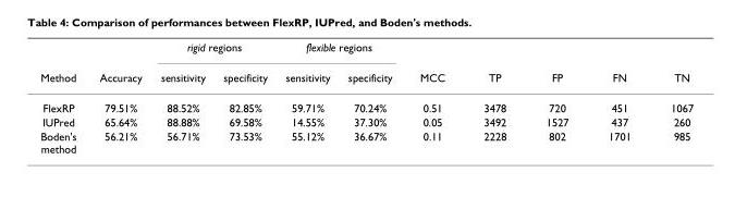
<table><thead><tr><td rowspan="2">Method</td><td rowspan="2">Accuracy</td><td colspan="2">rigid regions</td><td colspan="2">flexible regions</td><td rowspan="2">MCC</td><td rowspan="2">TP</td><td rowspan="2">FP</td><td rowspan="2">FN</td><td rowspan="2">TN</td></tr><tr><td>sensitivity</td><td>specificity</td><td>sensitivity</td><td>specificity</td></tr></thead><tbody><tr><td>FlexRP</td><td>79.51%</td><td>88.52%</td><td>82.85%</td><td>59.71%</td><td>70.24%</td><td>0.51</td><td>3478</td><td>720</td><td>451</td><td>1067</td></tr><tr><td>IUPred</td><td>65.64%</td><td>88.88%</td><td>69.58%</td><td>14.55%</td><td>37.30%</td><td>0.05</td><td>3492</td><td>1527</td><td>437</td><td>260</td></tr><tr><td>Boden&#x27;s method</td><td>56.21%</td><td>56.71%</td><td>73.53%</td><td>55.12%</td><td>36.67%</td><td>0.11</td><td>2228</td><td>802</td><td>1701</td><td>985</td></tr></tbody></table>